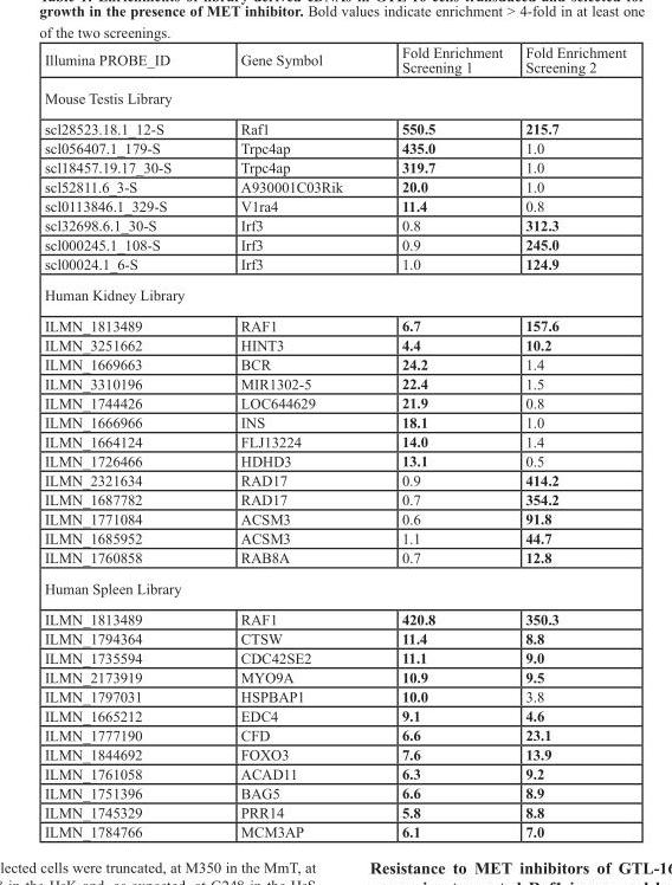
<table><thead><tr><td>Illumina PROBE_ID</td><td>Gene Symbol</td><td>Fold Enrichment Screening 1</td><td>Fold Enrichment Screening 2</td></tr></thead><tbody><tr><td colspan="4">Mouse Testis Library</td></tr><tr><td>scl28523.18.1_12-S</td><td>Raf1</td><td>550.5</td><td>215.7</td></tr><tr><td>scl056407.1_179-S</td><td>Trpc4ap</td><td>435.0</td><td>1.0</td></tr><tr><td>scl18457.19.17_30-S</td><td>Trpc4ap</td><td>319.7</td><td>1.0</td></tr><tr><td>scl52811.6_3-S</td><td>A930001C03Rik</td><td>20.0</td><td>1.0</td></tr><tr><td>scl0113846.1_329-S</td><td>V1ra4</td><td>11.4</td><td>0.8</td></tr><tr><td>scl32698.6.1_30-S</td><td>Irf3</td><td>0.8</td><td>312.3</td></tr><tr><td>scl000245.1_108-S</td><td>Irf3</td><td>0.9</td><td>245.0</td></tr><tr><td>scl00024.1_6-S</td><td>Irf3</td><td>1.0</td><td>124.9</td></tr><tr><td colspan="4">Human Kidney Library</td></tr><tr><td>ILMN_1813489</td><td>RAF1</td><td>6.7</td><td>157.6</td></tr><tr><td>ILMN_3251662</td><td>HINT3</td><td>4.4</td><td>10.2</td></tr><tr><td>ILMN_1669663</td><td>BCR</td><td>24.2</td><td>1.4</td></tr><tr><td>ILMN_3310196</td><td>MIR1302-5</td><td>22.4</td><td>1.5</td></tr><tr><td>ILMN_1744426</td><td>LOC644629</td><td>21.9</td><td>0.8</td></tr><tr><td>ILMN_1666966</td><td>INS</td><td>18.1</td><td>1.0</td></tr><tr><td>ILMN_1664124</td><td>FLJ13224</td><td>14.0</td><td>1.4</td></tr><tr><td>ILMN_1726466</td><td>HDHD3</td><td>13.1</td><td>0.5</td></tr><tr><td>ILMN_2321634</td><td>RAD17</td><td>0.9</td><td>414.2</td></tr><tr><td>ILMN_1687782</td><td>RAD17</td><td>0.7</td><td>354.2</td></tr><tr><td>ILMN_1771084</td><td>ACSM3</td><td>0.6</td><td>91.8</td></tr><tr><td>ILMN_1685952</td><td>ACSM3</td><td>1.1</td><td>44.7</td></tr><tr><td>ILMN_1760858</td><td>RAB8A</td><td>0.7</td><td>12.8</td></tr><tr><td colspan="4">Human Spleen Library</td></tr><tr><td>ILMN_1813489</td><td>RAF1</td><td>420.8</td><td>350.3</td></tr><tr><td>ILMN_1794364</td><td>CTSW</td><td>11.4</td><td>8.8</td></tr><tr><td>ILMN_1735594</td><td>CDC42SE2</td><td>11.1</td><td>9.0</td></tr><tr><td>ILMN_2173919</td><td>MYO9A</td><td>10.9</td><td>9.5</td></tr><tr><td>ILMN_1797031</td><td>HSPBAP1</td><td>10.0</td><td>3.8</td></tr><tr><td>ILMN_1665212</td><td>EDC4</td><td>9.1</td><td>4.6</td></tr><tr><td>ILMN_1777190</td><td>CFD</td><td>6.6</td><td>23.1</td></tr><tr><td>ILMN_1844692</td><td>FOXO3</td><td>7.6</td><td>13.9</td></tr><tr><td>ILMN_1761058</td><td>ACAD11</td><td>6.3</td><td>9.2</td></tr><tr><td>ILMN_1751396</td><td>BAG5</td><td>6.6</td><td>8.9</td></tr><tr><td>ILMN_1745329</td><td>PRR14</td><td>5.8</td><td>8.8</td></tr><tr><td>ILMN_1784766</td><td>MCM3AP</td><td>6.1</td><td>7.0</td></tr></tbody></table>